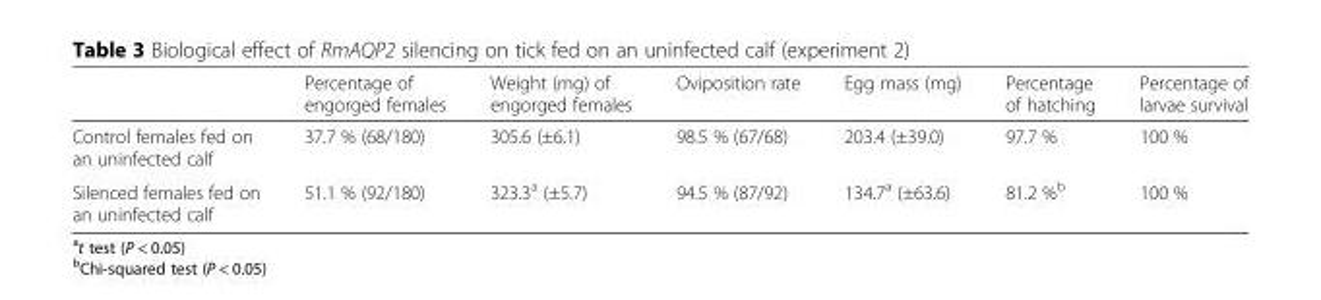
<table><thead><tr><td></td><td>Percentage of engorged females</td><td>Weight (mg) of engorged females</td><td>Oviposition rate</td><td>Egg mass (mg)</td><td>Percentage of hatching</td><td>Percentage of larvae survival</td></tr></thead><tbody><tr><td>Control females fed on an uninfected calf</td><td>37.7 % (68/180)</td><td>305.6 (±6.1)</td><td>98.5 % (67/68)</td><td>203.4 (±39.0)</td><td>97.7 %</td><td>100 %</td></tr><tr><td>Silenced females fed on an uninfected calf</td><td>51.1 % (92/180)</td><td>323.3<sup>a</sup> (±5.7)</td><td>94.5 % (87/92)</td><td>134.7<sup>a</sup> (±63.6)</td><td>81.2 %<sup>b</sup></td><td>100 %</td></tr></tbody></table>